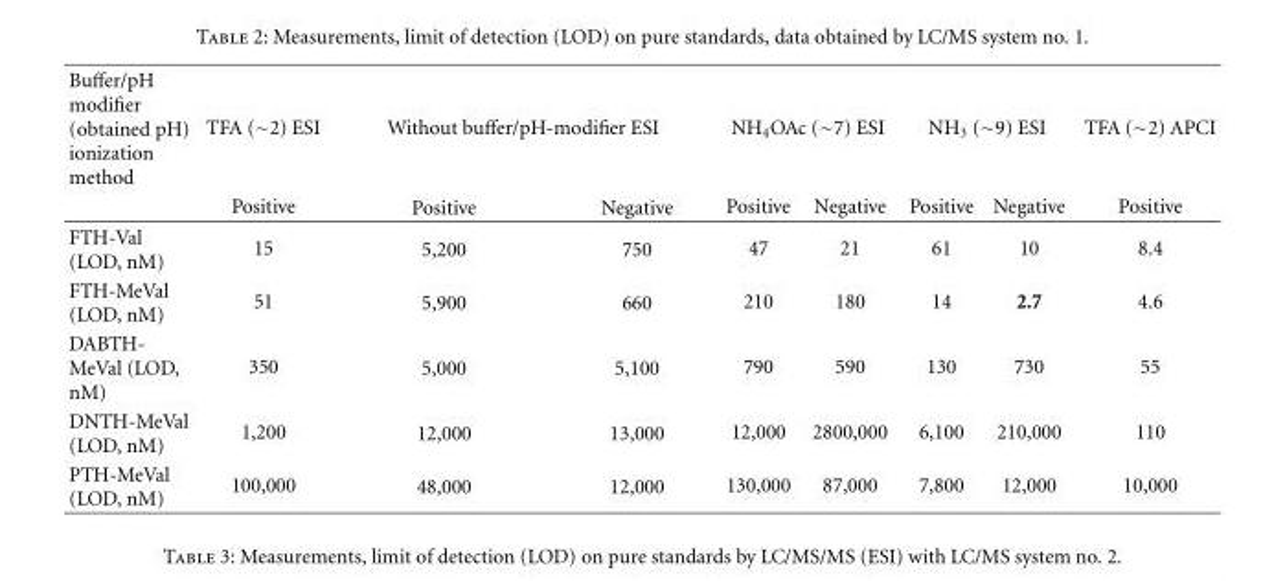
<table><thead><tr><td rowspan="2">Buffer/pH modifier (obtained pH) ionization method</td><td rowspan="2">TFA (∼2) ESI Positive</td><td colspan="2">Without buffer/pH-modifier ESI</td><td colspan="2">NH4OAc (∼7) ESI</td><td colspan="2">NH3 (∼9) ESI</td><td rowspan="2">TFA (∼2) APCI Positive</td></tr><tr><td>Positive</td><td>Negative</td><td>Positive</td><td>Negative</td><td>Positive</td><td>Negative</td></tr></thead><tbody><tr><td>FTH-Val (LOD, nM)</td><td>15</td><td>5,200</td><td>750</td><td>47</td><td>21</td><td>61</td><td>10</td><td>8.4</td></tr><tr><td>FTH-MeVal (LOD, nM)</td><td>51</td><td>5,900</td><td>660</td><td>210</td><td>180</td><td>14</td><td>2.7</td><td>4.6</td></tr><tr><td>DABTH- MeVal (LOD, nM)</td><td>350</td><td>5,000</td><td>5,100</td><td>790</td><td>590</td><td>130</td><td>730</td><td>55</td></tr><tr><td>DNTH-MeVal (LOD, nM)</td><td>1,200</td><td>12,000</td><td>13,000</td><td>12,000</td><td>2800,000</td><td>6,100</td><td>210,000</td><td>110</td></tr><tr><td>PTH-MeVal (LOD, nM)</td><td>100,000</td><td>48,000</td><td>12,000</td><td>130,000</td><td>87,000</td><td>7,800</td><td>12,000</td><td>10,000</td></tr></tbody></table>